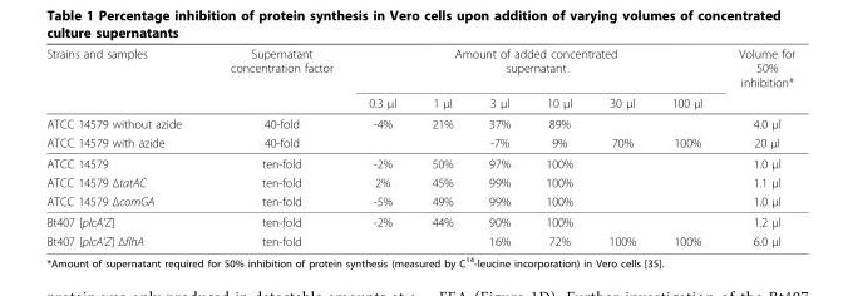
<table><thead><tr><td rowspan="2">Strains and samples</td><td rowspan="2">Supernatant concentration factor</td><td colspan="6">Amount of added concentrated supernatant</td><td rowspan="2">Volume for 50% inhibition*</td></tr><tr><td>0.3 μl</td><td>1 μl</td><td>3 μl</td><td>10 μl</td><td>30 μl</td><td>100 μl</td></tr></thead><tbody><tr><td>ATCC 14579 without azide</td><td>40-fold</td><td>-4%</td><td>21%</td><td>37%</td><td>89%</td><td></td><td></td><td>4.0 μl</td></tr><tr><td>ATCC 14579 with azide</td><td>40-fold</td><td></td><td></td><td>-7%</td><td>9%</td><td>70%</td><td>100%</td><td>20 μl</td></tr><tr><td>ATCC 14579</td><td>ten-fold</td><td>-2%</td><td>50%</td><td>97%</td><td>100%</td><td></td><td></td><td>1.0 μl</td></tr><tr><td>ATCC 14579 ΔtatAC</td><td>ten-fold</td><td>2%</td><td>45%</td><td>99%</td><td>100%</td><td></td><td></td><td>1.1 μl</td></tr><tr><td>ATCC 14579 ΔcomGA</td><td>ten-fold</td><td>-5%</td><td>49%</td><td>99%</td><td>100%</td><td></td><td></td><td>1.0 μl</td></tr><tr><td>Bt407 [plcA’Z]</td><td>ten-fold</td><td>-2%</td><td>44%</td><td>90%</td><td>100%</td><td></td><td></td><td>1.2 μl</td></tr><tr><td>Bt407 [plcA’Z] ΔflhA</td><td>ten-fold</td><td></td><td></td><td>16%</td><td>72%</td><td>100%</td><td>100%</td><td>6.0 μl</td></tr></tbody></table>